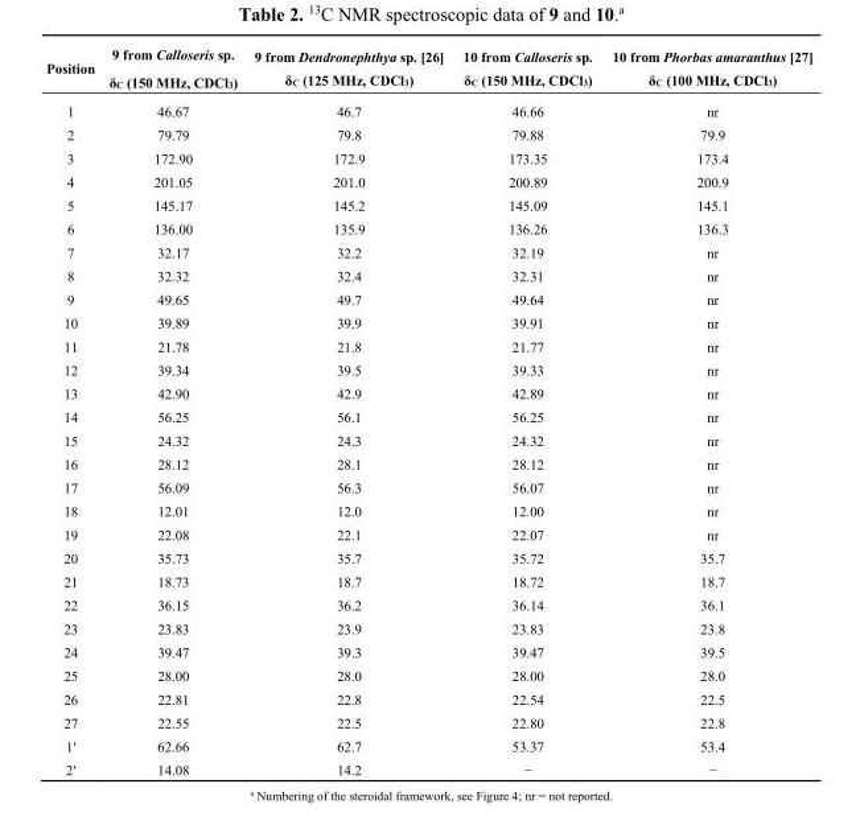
<table><thead><tr><td>Position</td><td>9 from Calloseris sp. δ<sub>C</sub> (150 MHz, CDCl<sub>3</sub>)</td><td>9 from Dendronephthya sp. [26] δ<sub>C</sub> (125 MHz, CDCl<sub>3</sub>)</td><td>10 from Calloseris sp. δ<sub>C</sub> (150 MHz, CDCl<sub>3</sub>)</td><td>10 from Phorbas amaranthus [27] δ<sub>C</sub> (100 MHz, CDCl<sub>3</sub>)</td></tr></thead><tbody><tr><td>1</td><td>46.67</td><td>46.7</td><td>46.66</td><td>nr</td></tr><tr><td>2</td><td>79.79</td><td>79.8</td><td>79.88</td><td>79.9</td></tr><tr><td>3</td><td>172.90</td><td>172.9</td><td>173.35</td><td>173.4</td></tr><tr><td>4</td><td>201.05</td><td>201.0</td><td>200.89</td><td>200.9</td></tr><tr><td>5</td><td>145.17</td><td>145.2</td><td>145.09</td><td>145.1</td></tr><tr><td>6</td><td>136.00</td><td>135.9</td><td>136.26</td><td>136.3</td></tr><tr><td>7</td><td>32.17</td><td>32.2</td><td>32.19</td><td>nr</td></tr><tr><td>8</td><td>32.32</td><td>32.4</td><td>32.31</td><td>nr</td></tr><tr><td>9</td><td>49.65</td><td>49.7</td><td>49.64</td><td>nr</td></tr><tr><td>10</td><td>39.89</td><td>39.9</td><td>39.91</td><td>nr</td></tr><tr><td>11</td><td>21.78</td><td>21.8</td><td>21.77</td><td>nr</td></tr><tr><td>12</td><td>39.34</td><td>39.5</td><td>39.33</td><td>nr</td></tr><tr><td>13</td><td>42.90</td><td>42.9</td><td>42.89</td><td>nr</td></tr><tr><td>14</td><td>56.25</td><td>56.1</td><td>56.25</td><td>nr</td></tr><tr><td>15</td><td>24.32</td><td>24.3</td><td>24.32</td><td>nr</td></tr><tr><td>16</td><td>28.12</td><td>28.1</td><td>28.12</td><td>nr</td></tr><tr><td>17</td><td>56.09</td><td>56.3</td><td>56.07</td><td>nr</td></tr><tr><td>18</td><td>12.01</td><td>12.0</td><td>12.00</td><td>nr</td></tr><tr><td>19</td><td>22.08</td><td>22.1</td><td>22.07</td><td>nr</td></tr><tr><td>20</td><td>35.73</td><td>35.7</td><td>35.72</td><td>35.7</td></tr><tr><td>21</td><td>18.73</td><td>18.7</td><td>18.72</td><td>18.7</td></tr><tr><td>22</td><td>36.15</td><td>36.2</td><td>36.14</td><td>36.1</td></tr><tr><td>23</td><td>23.83</td><td>23.9</td><td>23.83</td><td>23.8</td></tr><tr><td>24</td><td>39.47</td><td>39.3</td><td>39.47</td><td>39.5</td></tr><tr><td>25</td><td>28.00</td><td>28.0</td><td>28.00</td><td>28.0</td></tr><tr><td>26</td><td>22.81</td><td>22.8</td><td>22.54</td><td>22.5</td></tr><tr><td>27</td><td>22.55</td><td>22.5</td><td>22.80</td><td>22.8</td></tr><tr><td>1′</td><td>62.66</td><td>62.7</td><td>53.37</td><td>53.4</td></tr><tr><td>2′</td><td>14.08</td><td>14.2</td><td>−</td><td>−</td></tr></tbody></table>